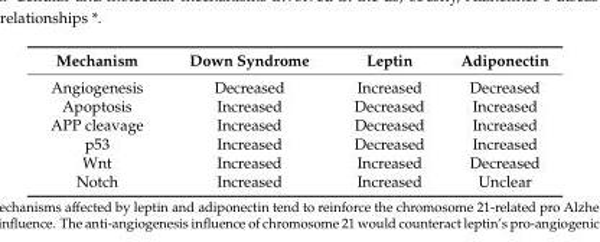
<table><thead><tr><td>Mechanism</td><td>Down Syndrome</td><td>Leptin</td><td>Adiponectin</td></tr></thead><tbody><tr><td>Angiogenesis</td><td>Decreased</td><td>Increased</td><td>Decreased</td></tr><tr><td>Apoptosis</td><td>Increased</td><td>Decreased</td><td>Increased</td></tr><tr><td>APP cleavage</td><td>Increased</td><td>Decreased</td><td>Increased</td></tr><tr><td>p53</td><td>Increased</td><td>Decreased</td><td>Increased</td></tr><tr><td>Wnt</td><td>Increased</td><td>Increased</td><td>Decreased</td></tr><tr><td>Notch</td><td>Increased</td><td>Increased</td><td>Unclear</td></tr></tbody></table>